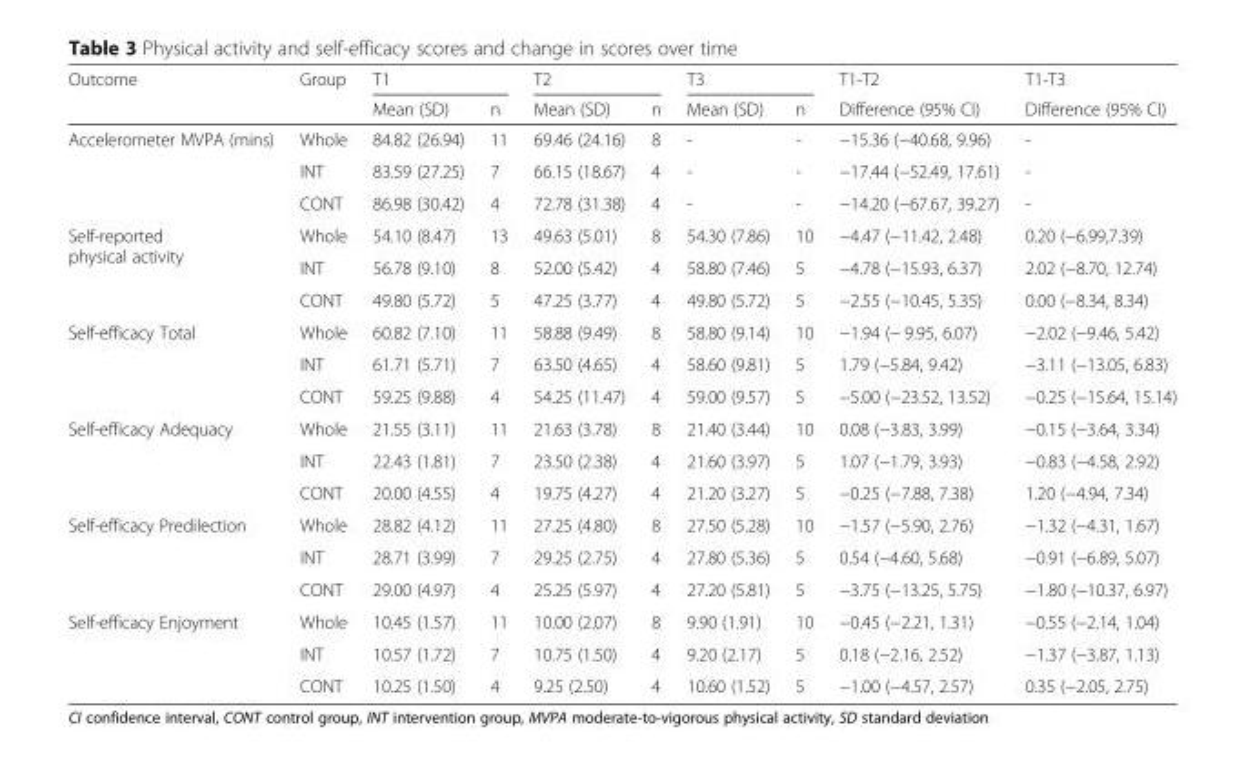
<table><thead><tr><td rowspan="2">Outcome</td><td rowspan="2">Group</td><td colspan="2">T1</td><td colspan="2">T2</td><td colspan="2">T3</td><td rowspan="2">T1-T2 Difference (95% CI)</td><td rowspan="2">T1-T3 Difference (95% CI)</td></tr><tr><td>Mean (SD)</td><td>n</td><td>Mean (SD)</td><td>n</td><td>Mean (SD)</td><td>n</td></tr></thead><tbody><tr><td rowspan="3">Accelerometer MVPA (mins)</td><td>Whole</td><td>84.82 (26.94)</td><td>11</td><td>69.46 (24.16)</td><td>8</td><td>-</td><td>-</td><td>−15.36 (−40.68, 9.96)</td><td>-</td></tr><tr><td>INT</td><td>83.59 (27.25)</td><td>7</td><td>66.15 (18.67)</td><td>4</td><td>-</td><td>-</td><td>−17.44 (−52.49, 17.61)</td><td>-</td></tr><tr><td>CONT</td><td>86.98 (30.42)</td><td>4</td><td>72.78 (31.38)</td><td>4</td><td>-</td><td>-</td><td>−14.20 (−67.67, 39.27)</td><td>-</td></tr><tr><td rowspan="3">Self-reported physical activity</td><td>Whole</td><td>54.10 (8.47)</td><td>13</td><td>49.63 (5.01)</td><td>8</td><td>54.30 (7.86)</td><td>10</td><td>−4.47 (−11.42, 2.48)</td><td>0.20 (−6.99,7.39)</td></tr><tr><td>INT</td><td>56.78 (9.10)</td><td>8</td><td>52.00 (5.42)</td><td>4</td><td>58.80 (7.46)</td><td>5</td><td>−4.78 (−15.93, 6.37)</td><td>2.02 (−8.70, 12.74)</td></tr><tr><td>CONT</td><td>49.80 (5.72)</td><td>5</td><td>47.25 (3.77)</td><td>4</td><td>49.80 (5.72)</td><td>5</td><td>−2.55 (−10.45, 5.35)</td><td>0.00 (−8.34, 8.34)</td></tr><tr><td rowspan="3">Self-efficacy Total</td><td>Whole</td><td>60.82 (7.10)</td><td>11</td><td>58.88 (9.49)</td><td>8</td><td>58.80 (9.14)</td><td>10</td><td>−1.94 (− 9.95, 6.07)</td><td>−2.02 (−9.46, 5.42)</td></tr><tr><td>INT</td><td>61.71 (5.71)</td><td>7</td><td>63.50 (4.65)</td><td>4</td><td>58.60 (9.81)</td><td>5</td><td>1.79 (−5.84, 9.42)</td><td>−3.11 (−13.05, 6.83)</td></tr><tr><td>CONT</td><td>59.25 (9.88)</td><td>4</td><td>54.25 (11.47)</td><td>4</td><td>59.00 (9.57)</td><td>5</td><td>−5.00 (−23.52, 13.52)</td><td>−0.25 (−15.64, 15.14)</td></tr><tr><td rowspan="3">Self-efficacy Adequacy</td><td>Whole</td><td>21.55 (3.11)</td><td>11</td><td>21.63 (3.78)</td><td>8</td><td>21.40 (3.44)</td><td>10</td><td>0.08 (−3.83, 3.99)</td><td>−0.15 (−3.64, 3.34)</td></tr><tr><td>INT</td><td>22.43 (1.81)</td><td>7</td><td>23.50 (2.38)</td><td>4</td><td>21.60 (3.97)</td><td>5</td><td>1.07 (−1.79, 3.93)</td><td>−0.83 (−4.58, 2.92)</td></tr><tr><td>CONT</td><td>20.00 (4.55)</td><td>4</td><td>19.75 (4.27)</td><td>4</td><td>21.20 (3.27)</td><td>5</td><td>−0.25 (−7.88, 7.38)</td><td>1.20 (−4.94, 7.34)</td></tr><tr><td rowspan="3">Self-efficacy Predilection</td><td>Whole</td><td>28.82 (4.12)</td><td>11</td><td>27.25 (4.80)</td><td>8</td><td>27.50 (5.28)</td><td>10</td><td>−1.57 (−5.90, 2.76)</td><td>−1.32 (−4.31, 1.67)</td></tr><tr><td>INT</td><td>28.71 (3.99)</td><td>7</td><td>29.25 (2.75)</td><td>4</td><td>27.80 (5.36)</td><td>5</td><td>0.54 (−4.60, 5.68)</td><td>−0.91 (−6.89, 5.07)</td></tr><tr><td>CONT</td><td>29.00 (4.97)</td><td>4</td><td>25.25 (5.97)</td><td>4</td><td>27.20 (5.81)</td><td>5</td><td>−3.75 (−13.25, 5.75)</td><td>−1.80 (−10.37, 6.97)</td></tr><tr><td rowspan="3">Self-efficacy Enjoyment</td><td>Whole</td><td>10.45 (1.57)</td><td>11</td><td>10.00 (2.07)</td><td>8</td><td>9.90 (1.91)</td><td>10</td><td>−0.45 (−2.21, 1.31)</td><td>−0.55 (−2.14, 1.04)</td></tr><tr><td>INT</td><td>10.57 (1.72)</td><td>7</td><td>10.75 (1.50)</td><td>4</td><td>9.20 (2.17)</td><td>5</td><td>0.18 (−2.16, 2.52)</td><td>−1.37 (−3.87, 1.13)</td></tr><tr><td>CONT</td><td>10.25 (1.50)</td><td>4</td><td>9.25 (2.50)</td><td>4</td><td>10.60 (1.52)</td><td>5</td><td>−1.00 (−4.57, 2.57)</td><td>0.35 (−2.05, 2.75)</td></tr></tbody></table>